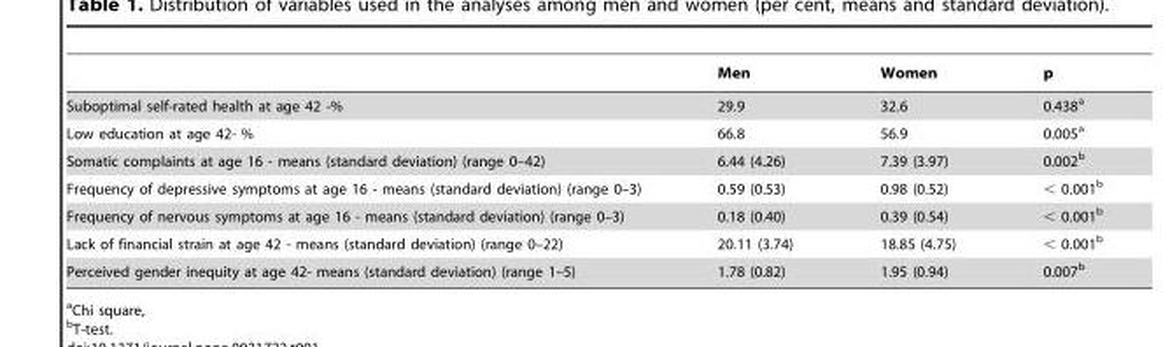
<table><thead><tr><td></td><td>Men</td><td>Women</td><td>p</td></tr></thead><tbody><tr><td>Suboptimal self-rated health at age 42 -%</td><td>29.9</td><td>32.6</td><td>0.438<sup>a</sup></td></tr><tr><td>Low education at age 42- %</td><td>66.8</td><td>56.9</td><td>0.005<sup>a</sup></td></tr><tr><td>Somatic complaints at age 16 - means (standard deviation) (range 0–42)</td><td>6.44 (4.26)</td><td>7.39 (3.97)</td><td>0.002<sup>b</sup></td></tr><tr><td>Frequency of depressive symptoms at age 16 - means (standard deviation) (range 0–3)</td><td>0.59 (0.53)</td><td>0.98 (0.52)</td><td>&lt; 0.001<sup>b</sup></td></tr><tr><td>Frequency of nervous symptoms at age 16 - means (standard deviation) (range 0–3)</td><td>0.18 (0.40)</td><td>0.39 (0.54)</td><td>&lt; 0.001<sup>b</sup></td></tr><tr><td>Lack of financial strain at age 42 - means (standard deviation) (range 0–22)</td><td>20.11 (3.74)</td><td>18.85 (4.75)</td><td>&lt; 0.001<sup>b</sup></td></tr><tr><td>Perceived gender inequity at age 42- means (standard deviation) (range 1–5)</td><td>1.78 (0.82)</td><td>1.95 (0.94)</td><td>0.007<sup>b</sup></td></tr></tbody></table>